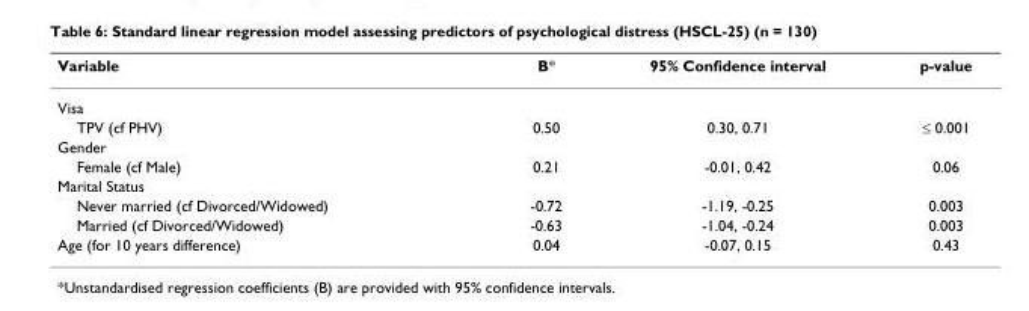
<table><thead><tr><td>Variable</td><td>B*</td><td>95% Confidence interval</td><td>p-value</td></tr></thead><tbody><tr><td colspan="4">Visa</td></tr><tr><td>TPV (cf PHV)</td><td>0.50</td><td>0.30, 0.71</td><td>≤ 0.001</td></tr><tr><td colspan="4">Gender</td></tr><tr><td>Female (cf Male)</td><td>0.21</td><td>-0.01, 0.42</td><td>0.06</td></tr><tr><td colspan="4">Marital Status</td></tr><tr><td>Never married (cf Divorced/Widowed)</td><td>-0.72</td><td>-1.19, -0.25</td><td>0.003</td></tr><tr><td>Married (cf Divorced/Widowed)</td><td>-0.63</td><td>-1.04, -0.24</td><td>0.003</td></tr><tr><td>Age (for 10 years difference)</td><td>0.04</td><td>-0.07, 0.15</td><td>0.43</td></tr></tbody></table>